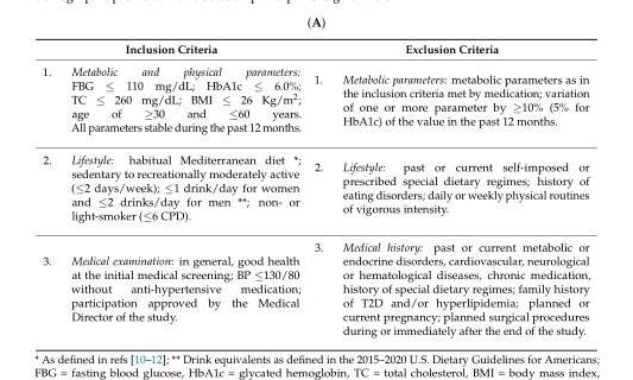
<table><thead><tr><td>Inclusion Criteria</td><td>Exclusion Criteria</td></tr></thead><tbody><tr><td>1. Metabolic and physical parameters: FBG ≤ 110 mg/dL; HbA1c ≤ 6.0%; TC ≤ 260 mg/dL; BMI ≤ 26 Kg/m<sup>2</sup>; age of ≥30 and ≤60 years. All parameters stable during the past 12 months.</td><td>1. Metabolic parameters: metabolic parameters as in the inclusion criteria met by medication; variation of one or more parameter by ≥10% (5% for HbA1c) of the value in the past 12 months.</td></tr><tr><td>2. Lifestyle: habitual Mediterranean diet *; sedentary to recreationally moderately active (≤2 days/week); ≤1 drink/day for women and ≤2 drinks/day for men **; non- or light-smoker (≤6 CPD).</td><td>2. Lifestyle: past or current self-imposed or prescribed special dietary regimes; history of eating disorders; daily or weekly physical routines of vigorous intensity.</td></tr><tr><td>3. Medical examination: in general, good health at the initial medical screening; BP ≤130/80 without anti-hypertensive medication; participation approved by the Medical Director of the study.</td><td>3. Medical history: past or current metabolic or endocrine disorders, cardiovascular, neurological or hematological diseases, chronic medication, history of special dietary regimes; family history of T2D and/or hyperlipidemia; planned or current pregnancy; planned surgical procedures during or immediately after the end of the study.</td></tr></tbody></table>